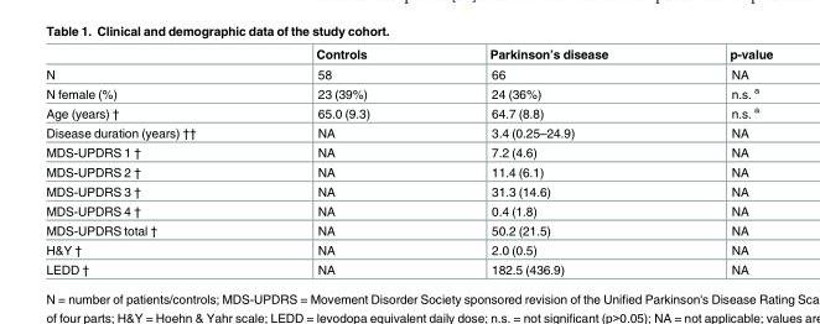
<table><thead><tr><td></td><td>Controls</td><td>Parkinson’s disease</td><td>p-value</td></tr></thead><tbody><tr><td>N</td><td>58</td><td>66</td><td>NA</td></tr><tr><td>N female (%)</td><td>23 (39%)</td><td>24 (36%)</td><td>n.s. <sup>a</sup></td></tr><tr><td>Age (years) †</td><td>65.0 (9.3)</td><td>64.7 (8.8)</td><td>n.s. <sup>a</sup></td></tr><tr><td>Disease duration (years) ††</td><td>NA</td><td>3.4 (0.25–24.9)</td><td>NA</td></tr><tr><td>MDS-UPDRS 1 †</td><td>NA</td><td>7.2 (4.6)</td><td>NA</td></tr><tr><td>MDS-UPDRS 2 †</td><td>NA</td><td>11.4 (6.1)</td><td>NA</td></tr><tr><td>MDS-UPDRS 3 †</td><td>NA</td><td>31.3 (14.6)</td><td>NA</td></tr><tr><td>MDS-UPDRS 4 †</td><td>NA</td><td>0.4 (1.8)</td><td>NA</td></tr><tr><td>MDS-UPDRS total †</td><td>NA</td><td>50.2 (21.5)</td><td>NA</td></tr><tr><td>H&amp;Y †</td><td>NA</td><td>2.0 (0.5)</td><td>NA</td></tr><tr><td>LEDD †</td><td>NA</td><td>182.5 (436.9)</td><td>NA</td></tr></tbody></table>